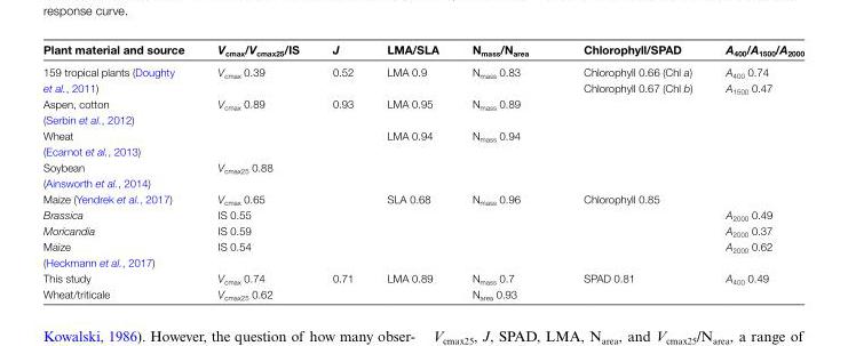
<table><thead><tr><td>Plant material and source</td><td>V<sub>cmax</sub>/V<sub>cmax25</sub>/IS</td><td>J</td><td>LMA/SLA</td><td>N<sub>mass</sub>/N<sub>area</sub></td><td>Chlorophyll/SPAD</td><td>A<sub>400</sub>/A<sub>1500</sub>/A<sub>2000</sub></td></tr></thead><tbody><tr><td>159 tropical plants (Doughty et al., 2011)</td><td>V<sub>cmax</sub> 0.39</td><td>0.52</td><td>LMA 0.9</td><td>N<sub>mass</sub> 0.83</td><td>Chlorophyll 0.66 (Chl a) Chlorophyll 0.67 (Chl b)</td><td>A<sub>400</sub> 0.74 A<sub>1500</sub> 0.47</td></tr><tr><td>Aspen, cotton (Serbin et al., 2012)</td><td>V<sub>cmax</sub> 0.89</td><td>0.93</td><td>LMA 0.95</td><td>N<sub>mass</sub> 0.89</td><td></td><td></td></tr><tr><td>Wheat (Ecarnot et al., 2013)</td><td></td><td></td><td>LMA 0.94</td><td>N<sub>mass</sub> 0.94</td><td></td><td></td></tr><tr><td>Soybean (Ainsworth et al., 2014)</td><td>V<sub>cmax25</sub> 0.88</td><td></td><td></td><td></td><td></td><td></td></tr><tr><td>Maize (Yendrek et al., 2017)</td><td>V<sub>cmax</sub> 0.65</td><td></td><td>SLA 0.68</td><td>N<sub>mass</sub> 0.96</td><td>Chlorophyll 0.85</td><td></td></tr><tr><td>Brassica Moricandia Maize (Heckmann et al., 2017)</td><td>IS 0.55 IS 0.59 IS 0.54</td><td></td><td></td><td></td><td></td><td>A<sub>2000</sub> 0.49 A<sub>2000</sub> 0.37 A<sub>2000</sub> 0.62</td></tr><tr><td>This study Wheat/triticale</td><td>V<sub>cmax</sub> 0.74 V<sub>cmax25</sub> 0.62</td><td>0.71</td><td>LMA 0.89</td><td>N<sub>mass</sub> 0.7 N<sub>area</sub> 0.93</td><td>SPAD 0.81</td><td>A<sub>400</sub> 0.49</td></tr></tbody></table>